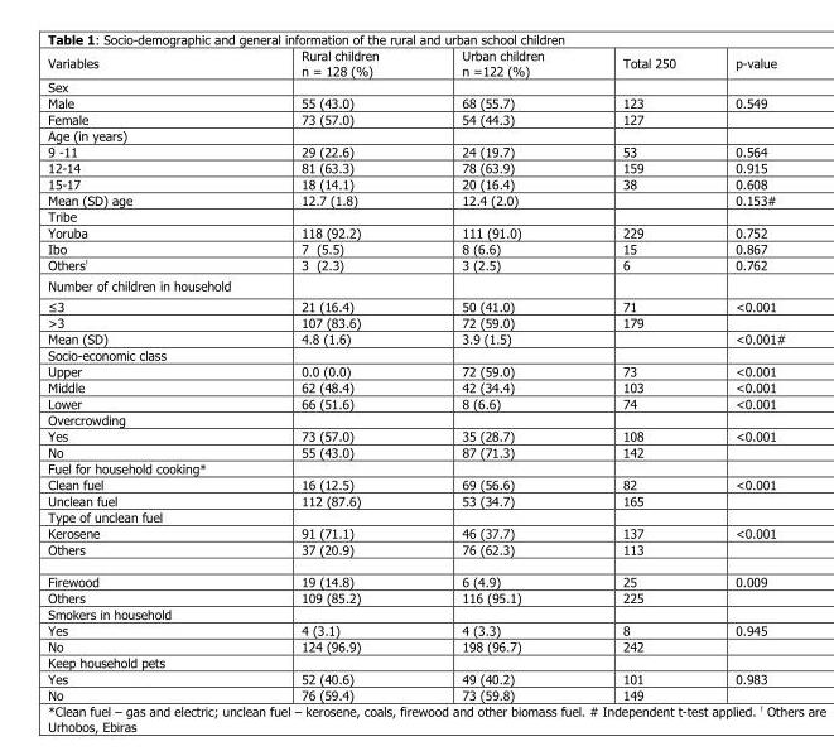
<table><thead><tr><td>Variables</td><td>Rural children n = 128 (%)</td><td>Urban children n =122 (%)</td><td>Total 250</td><td>p-value</td></tr></thead><tbody><tr><td colspan="5">Sex</td></tr><tr><td>Male</td><td>55 (43.0)</td><td>68 (55.7)</td><td>123</td><td>0.549</td></tr><tr><td>Female</td><td>73 (57.0)</td><td>54 (44.3)</td><td>127</td><td></td></tr><tr><td colspan="5">Age (in years)</td></tr><tr><td>9 -11</td><td>29 (22.6)</td><td>24 (19.7)</td><td>53</td><td>0.564</td></tr><tr><td>12-14</td><td>81 (63.3)</td><td>78 (63.9)</td><td>159</td><td>0.915</td></tr><tr><td>15-17</td><td>18 (14.1)</td><td>20 (16.4)</td><td>38</td><td>0.608</td></tr><tr><td>Mean (SD) age</td><td>12.7 (1.8)</td><td>12.4 (2.0)</td><td></td><td>0.153<sup>#</sup></td></tr><tr><td colspan="5">Tribe</td></tr><tr><td>Yoruba</td><td>118 (92.2)</td><td>111 (91.0)</td><td>229</td><td>0.752</td></tr><tr><td>Ibo</td><td>7 (5.5)</td><td>8 (6.6)</td><td>15</td><td>0.867</td></tr><tr><td>Others<sup>!</sup></td><td>3 (2.3)</td><td>3 (2.5)</td><td>6</td><td>0.762</td></tr><tr><td colspan="5">Number of children in household</td></tr><tr><td>≤3</td><td>21 (16.4)</td><td>50 (41.0)</td><td>71</td><td>&lt;0.001</td></tr><tr><td>&gt;3</td><td>107 (83.6)</td><td>72 (59.0)</td><td>179</td><td></td></tr><tr><td>Mean (SD)</td><td>4.8 (1.6)</td><td>3.9 (1.5)</td><td></td><td>&lt;0.001#</td></tr><tr><td colspan="5">Socio-economic class</td></tr><tr><td>Upper</td><td>0.0 (0.0)</td><td>72 (59.0)</td><td>73</td><td>&lt;0.001</td></tr><tr><td>Middle</td><td>62 (48.4)</td><td>42 (34.4)</td><td>103</td><td>&lt;0.001</td></tr><tr><td>Lower</td><td>66 (51.6)</td><td>8 (6.6)</td><td>74</td><td>&lt;0.001</td></tr><tr><td colspan="5">Overcrowding</td></tr><tr><td>Yes</td><td>73 (57.0)</td><td>35 (28.7)</td><td>108</td><td>&lt;0.001</td></tr><tr><td>No</td><td>55 (43.0)</td><td>87 (71.3)</td><td>142</td><td></td></tr><tr><td colspan="5">Fuel for household cooking*</td></tr><tr><td>Clean fuel</td><td>16 (12.5)</td><td>69 (56.6)</td><td>82</td><td>&lt;0.001</td></tr><tr><td>Unclean fuel</td><td>112 (87.6)</td><td>53 (34.7)</td><td>165</td><td></td></tr><tr><td colspan="5">Type of unclean fuel</td></tr><tr><td>Kerosene</td><td>91 (71.1)</td><td>46 (37.7)</td><td>137</td><td>&lt;0.001</td></tr><tr><td>Others</td><td>37 (20.9)</td><td>76 (62.3)</td><td>113</td><td></td></tr><tr><td>Firewood</td><td>19 (14.8)</td><td>6 (4.9)</td><td>25</td><td>0.009</td></tr><tr><td>Others</td><td>109 (85.2)</td><td>116 (95.1)</td><td>225</td><td></td></tr><tr><td colspan="5">Smokers in household</td></tr><tr><td>Yes</td><td>4 (3.1)</td><td>4 (3.3)</td><td>8</td><td>0.945</td></tr><tr><td>No</td><td>124 (96.9)</td><td>198 (96.7)</td><td>242</td><td></td></tr><tr><td colspan="5">Keep household pets</td></tr><tr><td>Yes</td><td>52 (40.6)</td><td>49 (40.2)</td><td>101</td><td>0.983</td></tr><tr><td>No</td><td>76 (59.4)</td><td>73 (59.8)</td><td>149</td><td></td></tr></tbody></table>